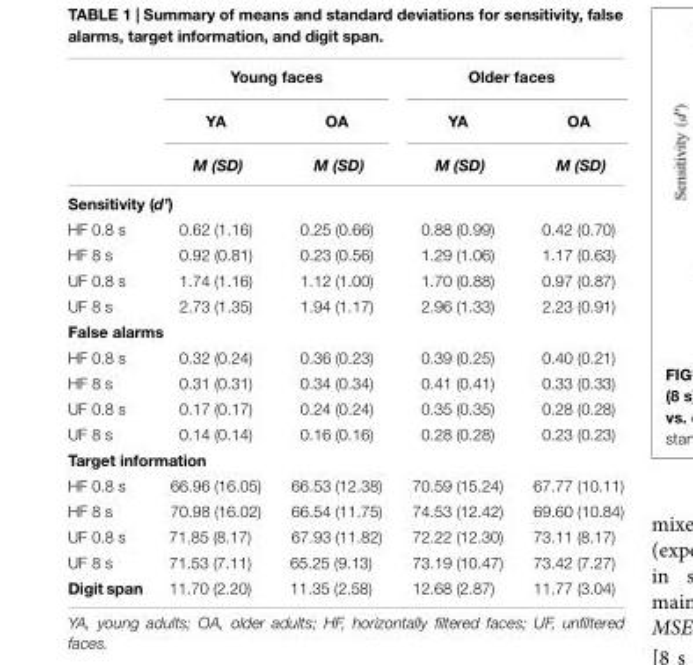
<table><thead><tr><td rowspan="3"></td><td colspan="2">Young faces</td><td colspan="2">Older faces</td></tr><tr><td rowspan="2">YA M (SD)</td><td rowspan="2">OA M (SD)</td><td rowspan="2">YA M (SD)</td><td rowspan="2">OA M (SD)</td></tr><tr></tr></thead><tbody><tr><td colspan="5">Sensitivity (d’)</td></tr><tr><td>HF 0.8 s</td><td>0.62 (1.16)</td><td>0.25 (0.66)</td><td>0.88 (0.99)</td><td>0.42 (0.70)</td></tr><tr><td>HF 8 s</td><td>0.92 (0.81)</td><td>0.23 (0.56)</td><td>1.29 (1.06)</td><td>1.17 (0.63)</td></tr><tr><td>UF 0.8 s</td><td>1.74 (1.16)</td><td>1.12 (1.00)</td><td>1.70 (0.88)</td><td>0.97 (0.87)</td></tr><tr><td>UF 8 s</td><td>2.73 (1.35)</td><td>1.94 (1.17)</td><td>2.96 (1.33)</td><td>2.23 (0.91)</td></tr><tr><td colspan="5">False alarms</td></tr><tr><td>HF 0.8 s</td><td>0.32 (0.24)</td><td>0.36 (0.23)</td><td>0.39 (0.25)</td><td>0.40 (0.21)</td></tr><tr><td>HF 8 s</td><td>0.31 (0.31)</td><td>0.34 (0.34)</td><td>0.41 (0.41)</td><td>0.33 (0.33)</td></tr><tr><td>UF 0.8 s</td><td>0.17 (0.17)</td><td>0.24 (0.24)</td><td>0.35 (0.35)</td><td>0.28 (0.28)</td></tr><tr><td>UF 8 s</td><td>0.14 (0.14)</td><td>0.16 (0.16)</td><td>0.28 (0.28)</td><td>0.23 (0.23)</td></tr><tr><td colspan="5">Target information</td></tr><tr><td>HF 0.8 s</td><td>66.96 (16.05)</td><td>66.53 (12.38)</td><td>70.59 (15.24)</td><td>67.77 (10.11)</td></tr><tr><td>HF 8 s</td><td>70.98 (16.02)</td><td>66.54 (11.75)</td><td>74.53 (12.42)</td><td>69.60 (10.84)</td></tr><tr><td>UF 0.8 s</td><td>71.85 (8.17)</td><td>67.93 (11.82)</td><td>72.22 (12.30)</td><td>73.11 (8.17)</td></tr><tr><td>UF 8 s</td><td>71.53 (7.11)</td><td>65.25 (9.13)</td><td>73.19 (10.47)</td><td>73.42 (7.27)</td></tr><tr><td>Digit span</td><td>11.70 (2.20)</td><td>11.35 (2.58)</td><td>12.68 (2.87)</td><td>11.77 (3.04)</td></tr></tbody></table>